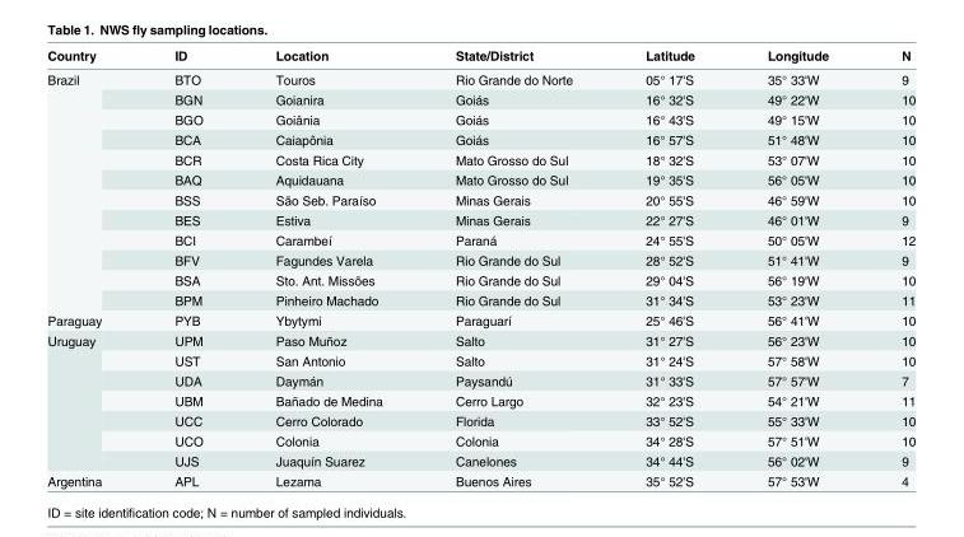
<table><thead><tr><td>Country</td><td>ID</td><td>Location</td><td>State/District</td><td>Latitude</td><td>Longitude</td><td>N</td></tr></thead><tbody><tr><td rowspan="12">Brazil</td><td>BTO</td><td>Touros</td><td>Rio Grande do Norte</td><td>05° 17&#x27;S</td><td>35° 33&#x27;W</td><td>9</td></tr><tr><td>BGN</td><td>Goianira</td><td>Goiás</td><td>16° 32&#x27;S</td><td>49° 22&#x27;W</td><td>10</td></tr><tr><td>BGO</td><td>Goiânia</td><td>Goiás</td><td>16° 43&#x27;S</td><td>49° 15&#x27;W</td><td>10</td></tr><tr><td>BCA</td><td>Caiapônia</td><td>Goiás</td><td>16° 57&#x27;S</td><td>51° 48&#x27;W</td><td>10</td></tr><tr><td>BCR</td><td>Costa Rica City</td><td>Mato Grosso do Sul</td><td>18° 32&#x27;S</td><td>53° 07&#x27;W</td><td>10</td></tr><tr><td>BAQ</td><td>Aquidauana</td><td>Mato Grosso do Sul</td><td>19° 35&#x27;S</td><td>56° 05&#x27;W</td><td>10</td></tr><tr><td>BSS</td><td>São Seb. Paraíso</td><td>Minas Gerais</td><td>20° 55&#x27;S</td><td>46° 59&#x27;W</td><td>10</td></tr><tr><td>BES</td><td>Estiva</td><td>Minas Gerais</td><td>22° 27&#x27;S</td><td>46° 01&#x27;W</td><td>9</td></tr><tr><td>BCI</td><td>Carambeí</td><td>Paraná</td><td>24° 55&#x27;S</td><td>50° 05&#x27;W</td><td>12</td></tr><tr><td>BFV</td><td>Fagundes Varela</td><td>Rio Grande do Sul</td><td>28° 52&#x27;S</td><td>51° 41&#x27;W</td><td>9</td></tr><tr><td>BSA</td><td>Sto. Ant. Missões</td><td>Rio Grande do Sul</td><td>29° 04&#x27;S</td><td>56° 19&#x27;W</td><td>10</td></tr><tr><td>BPM</td><td>Pinheiro Machado</td><td>Rio Grande do Sul</td><td>31° 34&#x27;S</td><td>53° 23&#x27;W</td><td>11</td></tr><tr><td>Paraguay</td><td>PYB</td><td>Ybytymi</td><td>Paraguarí</td><td>25° 46&#x27;S</td><td>56° 41&#x27;W</td><td>10</td></tr><tr><td rowspan="7">Uruguay</td><td>UPM</td><td>Paso Muñoz</td><td>Salto</td><td>31° 27&#x27;S</td><td>56° 23&#x27;W</td><td>10</td></tr><tr><td>UST</td><td>San Antonio</td><td>Salto</td><td>31° 24&#x27;S</td><td>57° 58&#x27;W</td><td>10</td></tr><tr><td>UDA</td><td>Daymán</td><td>Paysandú</td><td>31° 33&#x27;S</td><td>57° 57&#x27;W</td><td>7</td></tr><tr><td>UBM</td><td>Bañado de Medina</td><td>Cerro Largo</td><td>32° 23&#x27;S</td><td>54° 21&#x27;W</td><td>11</td></tr><tr><td>UCC</td><td>Cerro Colorado</td><td>Florida</td><td>33° 52&#x27;S</td><td>55° 33&#x27;W</td><td>10</td></tr><tr><td>UCO</td><td>Colonia</td><td>Colonia</td><td>34° 28&#x27;S</td><td>57° 51&#x27;W</td><td>10</td></tr><tr><td>UJS</td><td>Juaquín Suarez</td><td>Canelones</td><td>34° 44&#x27;S</td><td>56° 02&#x27;W</td><td>9</td></tr><tr><td>Argentina</td><td>APL</td><td>Lezama</td><td>Buenos Aires</td><td>35° 52&#x27;S</td><td>57° 53&#x27;W</td><td>4</td></tr></tbody></table>